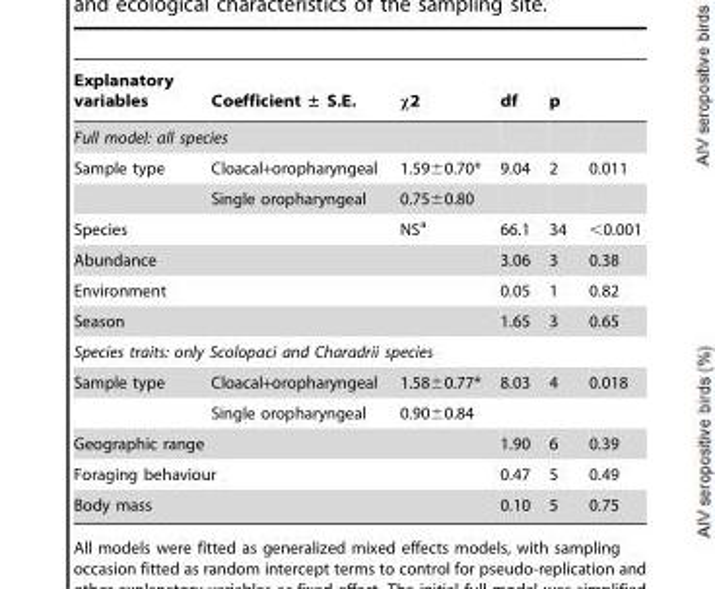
<table><thead><tr><td>Explanatory variables</td><td>Coefficient ± S.E.</td><td>χ2</td><td>df</td><td>p</td><td></td></tr></thead><tbody><tr><td colspan="6">Full model: all species</td></tr><tr><td rowspan="2">Sample type</td><td>Cloacal+oropharyngeal</td><td>1.59±0.70*</td><td>9.04</td><td>2</td><td>0.011</td></tr><tr><td>Single oropharyngeal</td><td>0.75±0.80</td><td></td><td></td><td></td></tr><tr><td colspan="2">Species</td><td>NS<sup>a</sup></td><td>66.1</td><td>34</td><td>&lt;0.001</td></tr><tr><td colspan="2">Abundance</td><td></td><td>3.06</td><td>3</td><td>0.38</td></tr><tr><td colspan="2">Environment</td><td></td><td>0.05</td><td>1</td><td>0.82</td></tr><tr><td colspan="2">Season</td><td></td><td>1.65</td><td>3</td><td>0.65</td></tr><tr><td colspan="6">Species traits: only Scolopaci and Charadrii species</td></tr><tr><td rowspan="2">Sample type</td><td>Cloacal+oropharyngeal</td><td>1.58±0.77*</td><td>8.03</td><td>4</td><td>0.018</td></tr><tr><td>Single oropharyngeal</td><td>0.90±0.84</td><td></td><td></td><td></td></tr><tr><td colspan="2">Geographic range</td><td></td><td>1.90</td><td>6</td><td>0.39</td></tr><tr><td colspan="2">Foraging behaviour</td><td></td><td>0.47</td><td>5</td><td>0.49</td></tr><tr><td colspan="2">Body mass</td><td></td><td>0.10</td><td>5</td><td>0.75</td></tr></tbody></table>